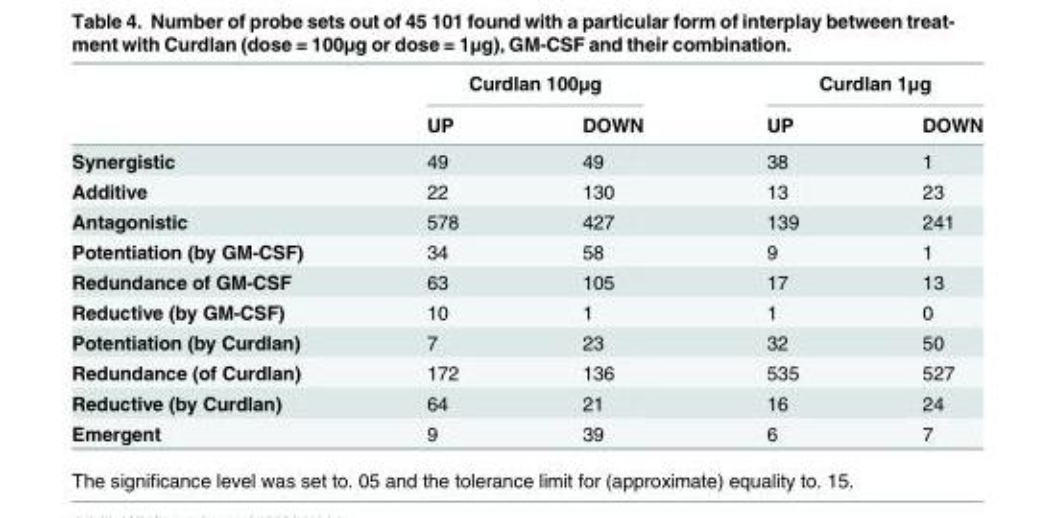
<table><thead><tr><td rowspan="2"></td><td colspan="2">Curdlan 100μg</td><td colspan="2">Curdlan 1μg</td></tr><tr><td>UP</td><td>DOWN</td><td>UP</td><td>DOWN</td></tr></thead><tbody><tr><td>Synergistic</td><td>49</td><td>49</td><td>38</td><td>1</td></tr><tr><td>Additive</td><td>22</td><td>130</td><td>13</td><td>23</td></tr><tr><td>Antagonistic</td><td>578</td><td>427</td><td>139</td><td>241</td></tr><tr><td>Potentiation (by GM-CSF)</td><td>34</td><td>58</td><td>9</td><td>1</td></tr><tr><td>Redundance of GM-CSF</td><td>63</td><td>105</td><td>17</td><td>13</td></tr><tr><td>Reductive (by GM-CSF)</td><td>10</td><td>1</td><td>1</td><td>0</td></tr><tr><td>Potentiation (by Curdlan)</td><td>7</td><td>23</td><td>32</td><td>50</td></tr><tr><td>Redundance (of Curdlan)</td><td>172</td><td>136</td><td>535</td><td>527</td></tr><tr><td>Reductive (by Curdlan)</td><td>64</td><td>21</td><td>16</td><td>24</td></tr><tr><td>Emergent</td><td>9</td><td>39</td><td>6</td><td>7</td></tr></tbody></table>